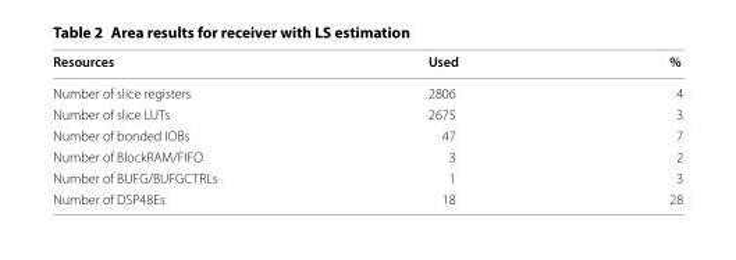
<table><thead><tr><td>Resources</td><td>Used</td><td>%</td></tr></thead><tbody><tr><td>Number of slice registers</td><td>2806</td><td>4</td></tr><tr><td>Number of slice LUTs</td><td>2675</td><td>3</td></tr><tr><td>Number of bonded IOBs</td><td>47</td><td>7</td></tr><tr><td>Number of BlockRAM/FIFO</td><td>3</td><td>2</td></tr><tr><td>Number of BUFG/BUFGCTRLs</td><td>1</td><td>3</td></tr><tr><td>Number of DSP48Es</td><td>18</td><td>28</td></tr></tbody></table>